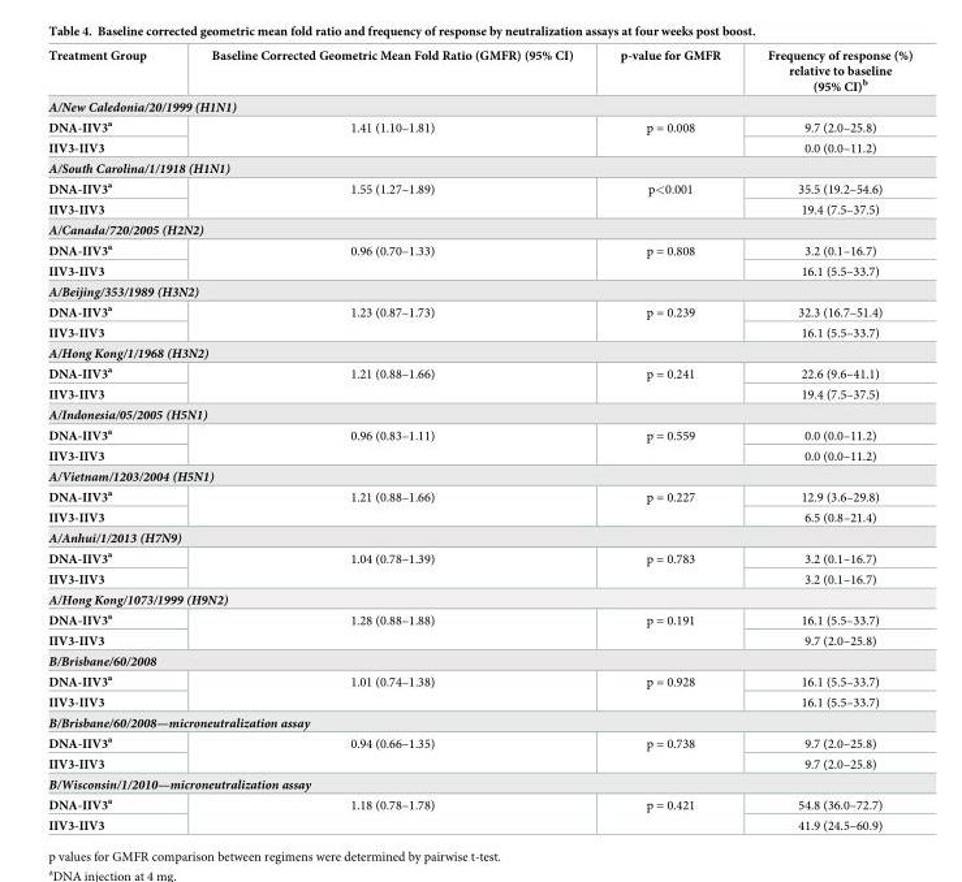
<table><thead><tr><td>Treatment Group</td><td>Baseline Corrected Geometric Mean Fold Ratio (GMFR) (95% CI)</td><td>p-value for GMFR</td><td>Frequency of response (%) relative to baseline (95% CI)<sup>b</sup></td></tr></thead><tbody><tr><td colspan="4">A/New Caledonia/20/1999 (H1N1)</td></tr><tr><td>DNA-IIV3<sup>a</sup></td><td rowspan="2">1.41 (1.10–1.81)</td><td rowspan="2">p = 0.008</td><td>9.7 (2.0–25.8)</td></tr><tr><td>IIV3-IIV3</td><td>0.0 (0.0–11.2)</td></tr><tr><td colspan="4">A/South Carolina/1/1918 (H1N1)</td></tr><tr><td>DNA-IIV3<sup>a</sup></td><td rowspan="2">1.55 (1.27–1.89)</td><td rowspan="2">p&lt;0.001</td><td>35.5 (19.2–54.6)</td></tr><tr><td>IIV3-IIV3</td><td>19.4 (7.5–37.5)</td></tr><tr><td colspan="4">A/Canada/720/2005 (H2N2)</td></tr><tr><td>DNA-IIV3<sup>a</sup></td><td rowspan="2">0.96 (0.70–1.33)</td><td rowspan="2">p = 0.808</td><td>3.2 (0.1–16.7)</td></tr><tr><td>IIV3-IIV3</td><td>16.1 (5.5–33.7)</td></tr><tr><td colspan="4">A/Beijing/353/1989 (H3N2)</td></tr><tr><td>DNA-IIV3<sup>a</sup></td><td rowspan="2">1.23 (0.87–1.73)</td><td rowspan="2">p = 0.239</td><td>32.3 (16.7–51.4)</td></tr><tr><td>IIV3-IIV3</td><td>16.1 (5.5–33.7)</td></tr><tr><td colspan="4">A/Hong Kong/1/1968 (H3N2)</td></tr><tr><td>DNA-IIV3<sup>a</sup></td><td rowspan="2">1.21 (0.88–1.66)</td><td rowspan="2">p = 0.241</td><td>22.6 (9.6–41.1)</td></tr><tr><td>IIV3-IIV3</td><td>19.4 (7.5–37.5)</td></tr><tr><td colspan="4">A/Indonesia/05/2005 (H5N1)</td></tr><tr><td>DNA-IIV3<sup>a</sup></td><td rowspan="2">0.96 (0.83–1.11)</td><td rowspan="2">p = 0.559</td><td>0.0 (0.0–11.2)</td></tr><tr><td>IIV3-IIV3</td><td>0.0 (0.0–11.2)</td></tr><tr><td colspan="4">A/Vietnam/1203/2004 (H5N1)</td></tr><tr><td>DNA-IIV3<sup>a</sup></td><td rowspan="2">1.21 (0.88–1.66)</td><td rowspan="2">p = 0.227</td><td>12.9 (3.6–29.8)</td></tr><tr><td>IIV3-IIV3</td><td>6.5 (0.8–21.4)</td></tr><tr><td colspan="4">A/Anhui/1/2013 (H7N9)</td></tr><tr><td>DNA-IIV3<sup>a</sup></td><td rowspan="2">1.04 (0.78–1.39)</td><td rowspan="2">p = 0.783</td><td>3.2 (0.1–16.7)</td></tr><tr><td>IIV3-IIV3</td><td>3.2 (0.1–16.7)</td></tr><tr><td colspan="4">A/Hong Kong/1073/1999 (H9N2)</td></tr><tr><td>DNA-IIV3<sup>a</sup></td><td rowspan="2">1.28 (0.88–1.88)</td><td rowspan="2">p = 0.191</td><td>16.1 (5.5–33.7)</td></tr><tr><td>IIV3-IIV3</td><td>9.7 (2.0–25.8)</td></tr><tr><td colspan="4">B/Brisbane/60/2008</td></tr><tr><td>DNA-IIV3<sup>a</sup></td><td rowspan="2">1.01 (0.74–1.38)</td><td rowspan="2">p = 0.928</td><td>16.1 (5.5–33.7)</td></tr><tr><td>IIV3-IIV3</td><td>16.1 (5.5–33.7)</td></tr><tr><td colspan="4">B/Brisbane/60/2008—microneutralization assay</td></tr><tr><td>DNA-IIV3<sup>a</sup></td><td rowspan="2">0.94 (0.66–1.35)</td><td rowspan="2">p = 0.738</td><td>9.7 (2.0–25.8)</td></tr><tr><td>IIV3-IIV3</td><td>9.7 (2.0–25.8)</td></tr><tr><td colspan="4">B/Wisconsin/1/2010—microneutralization assay</td></tr><tr><td>DNA-IIV3<sup>a</sup></td><td rowspan="2">1.18 (0.78–1.78)</td><td rowspan="2">p = 0.421</td><td>54.8 (36.0–72.7)</td></tr><tr><td>IIV3-IIV3</td><td>41.9 (24.5–60.9)</td></tr></tbody></table>